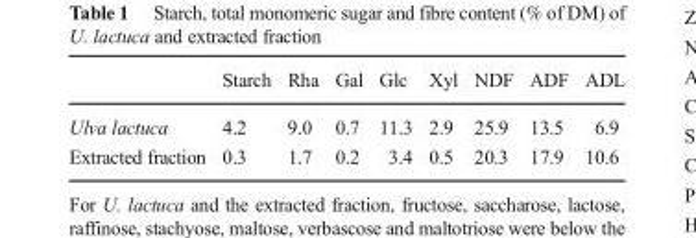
<table><thead><tr><td></td><td>Starch</td><td>Rha</td><td>Gal</td><td>Glc</td><td>Xyl</td><td>NDF</td><td>ADF</td><td>ADL</td></tr></thead><tbody><tr><td>Ulva lactuca</td><td>4.2</td><td>9.0</td><td>0.7</td><td>11.3</td><td>2.9</td><td>25.9</td><td>13.5</td><td>6.9</td></tr><tr><td>Extracted fraction</td><td>0.3</td><td>1.7</td><td>0.2</td><td>3.4</td><td>0.5</td><td>20.3</td><td>17.9</td><td>10.6</td></tr></tbody></table>